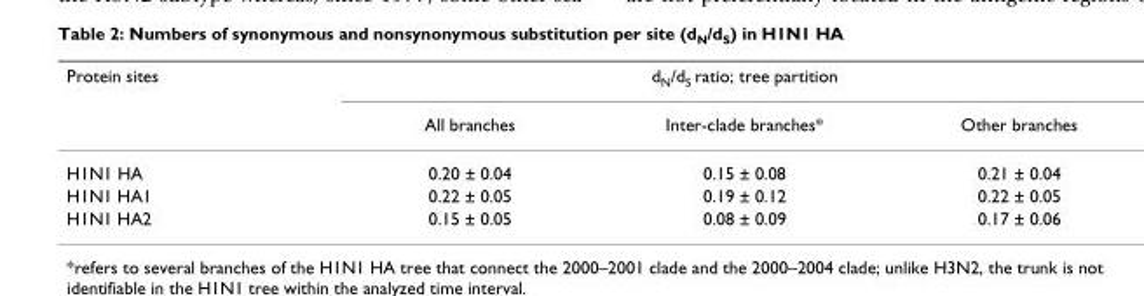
<table><thead><tr><td rowspan="2">Protein sites</td><td colspan="3">d<sub>N</sub>/d<sub>S</sub> ratio; tree partition</td></tr><tr><td>All branches</td><td>Inter-clade branches*</td><td>Other branches</td></tr></thead><tbody><tr><td>H1N1 HA</td><td>0.20 ± 0.04</td><td>0.15 ± 0.08</td><td>0.21 ± 0.04</td></tr><tr><td>H1N1 HA1</td><td>0.22 ± 0.05</td><td>0.19 ± 0.12</td><td>0.22 ± 0.05</td></tr><tr><td>H1N1 HA2</td><td>0.15 ± 0.05</td><td>0.08 ± 0.09</td><td>0.17 ± 0.06</td></tr></tbody></table>